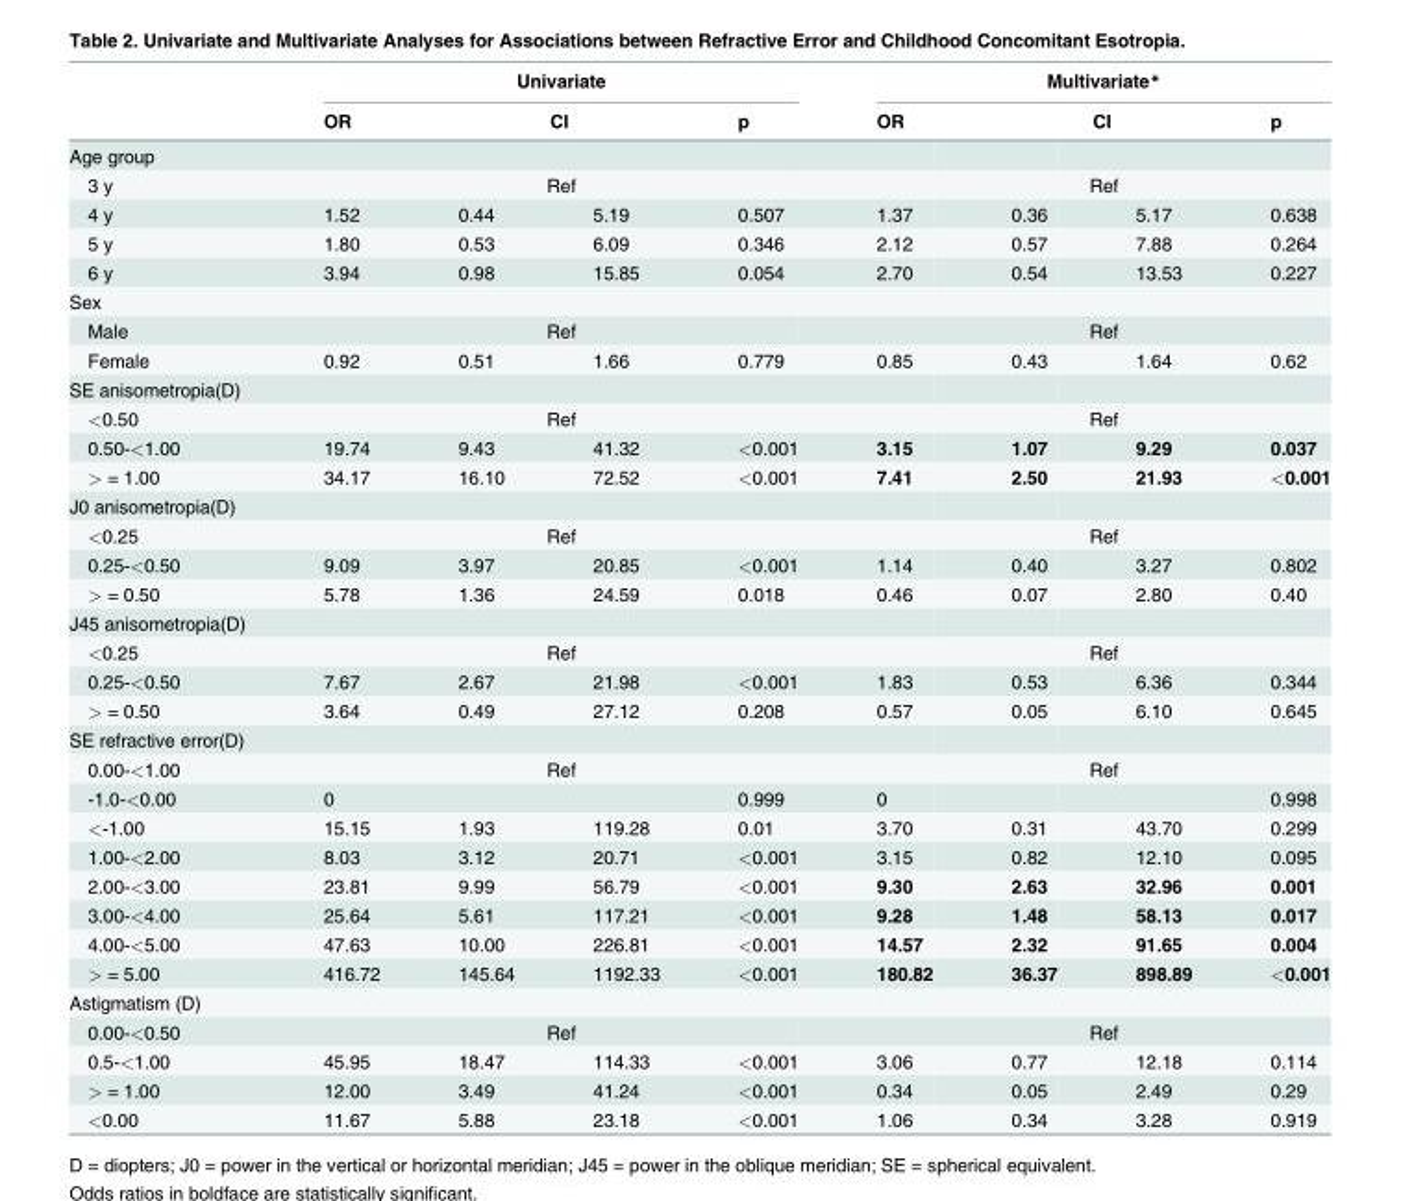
<table><thead><tr><td rowspan="3">Age group</td><td colspan="4">Univariate</td><td colspan="4">Multivariate*</td></tr><tr><td rowspan="2">OR</td><td colspan="2">CI</td><td rowspan="2">p</td><td rowspan="2">OR</td><td colspan="2">CI</td><td rowspan="2">p</td></tr><tr><td></td><td></td><td></td><td></td></tr></thead><tbody><tr><td>3 y</td><td colspan="4">Ref</td><td colspan="4">Ref</td></tr><tr><td>4 y</td><td>1.52</td><td>0.44</td><td>5.19</td><td>0.507</td><td>1.37</td><td>0.36</td><td>5.17</td><td>0.638</td></tr><tr><td>5 y</td><td>1.80</td><td>0.53</td><td>6.09</td><td>0.346</td><td>2.12</td><td>0.57</td><td>7.88</td><td>0.264</td></tr><tr><td>6 y</td><td>3.94</td><td>0.98</td><td>15.85</td><td>0.054</td><td>2.70</td><td>0.54</td><td>13.53</td><td>0.227</td></tr><tr><td colspan="9">Sex</td></tr><tr><td>Male</td><td colspan="4">Ref</td><td colspan="4">Ref</td></tr><tr><td>Female</td><td>0.92</td><td>0.51</td><td>1.66</td><td>0.779</td><td>0.85</td><td>0.43</td><td>1.64</td><td>0.62</td></tr><tr><td colspan="9">SE anisometropia(D)</td></tr><tr><td>&lt;0.50</td><td colspan="4">Ref</td><td colspan="4">Ref</td></tr><tr><td>0.50-&lt;1.00</td><td>19.74</td><td>9.43</td><td>41.32</td><td>&lt;0.001</td><td>3.15</td><td>1.07</td><td>9.29</td><td>0.037</td></tr><tr><td>&gt; = 1.00</td><td>34.17</td><td>16.10</td><td>72.52</td><td>&lt;0.001</td><td>7.41</td><td>2.50</td><td>21.93</td><td>&lt;0.001</td></tr><tr><td colspan="9">J0 anisometropia(D)</td></tr><tr><td>&lt;0.25</td><td colspan="4">Ref</td><td colspan="4">Ref</td></tr><tr><td>0.25-&lt;0.50</td><td>9.09</td><td>3.97</td><td>20.85</td><td>&lt;0.001</td><td>1.14</td><td>0.40</td><td>3.27</td><td>0.802</td></tr><tr><td>&gt; = 0.50</td><td>5.78</td><td>1.36</td><td>24.59</td><td>0.018</td><td>0.46</td><td>0.07</td><td>2.80</td><td>0.40</td></tr><tr><td colspan="9">J45 anisometropia(D)</td></tr><tr><td>&lt;0.25</td><td colspan="4">Ref</td><td colspan="4">Ref</td></tr><tr><td>0.25-&lt;0.50</td><td>7.67</td><td>2.67</td><td>21.98</td><td>&lt;0.001</td><td>1.83</td><td>0.53</td><td>6.36</td><td>0.344</td></tr><tr><td>&gt; = 0.50</td><td>3.64</td><td>0.49</td><td>27.12</td><td>0.208</td><td>0.57</td><td>0.05</td><td>6.10</td><td>0.645</td></tr><tr><td colspan="9">SE refractive error(D)</td></tr><tr><td>0.00-&lt;1.00</td><td colspan="4">Ref</td><td colspan="4">Ref</td></tr><tr><td>-1.0-&lt;0.00</td><td>0</td><td></td><td></td><td>0.999</td><td>0</td><td></td><td></td><td>0.998</td></tr><tr><td>&lt;-1.00</td><td>15.15</td><td>1.93</td><td>119.28</td><td>0.01</td><td>3.70</td><td>0.31</td><td>43.70</td><td>0.299</td></tr><tr><td>1.00-&lt;2.00</td><td>8.03</td><td>3.12</td><td>20.71</td><td>&lt;0.001</td><td>3.15</td><td>0.82</td><td>12.10</td><td>0.095</td></tr><tr><td>2.00-&lt;3.00</td><td>23.81</td><td>9.99</td><td>56.79</td><td>&lt;0.001</td><td>9.30</td><td>2.63</td><td>32.96</td><td>0.001</td></tr><tr><td>3.00-&lt;4.00</td><td>25.64</td><td>5.61</td><td>117.21</td><td>&lt;0.001</td><td>9.28</td><td>1.48</td><td>58.13</td><td>0.017</td></tr><tr><td>4.00-&lt;5.00</td><td>47.63</td><td>10.00</td><td>226.81</td><td>&lt;0.001</td><td>14.57</td><td>2.32</td><td>91.65</td><td>0.004</td></tr><tr><td>&gt; = 5.00</td><td>416.72</td><td>145.64</td><td>1192.33</td><td>&lt;0.001</td><td>180.82</td><td>36.37</td><td>898.89</td><td>&lt;0.001</td></tr><tr><td colspan="9">Astigmatism (D)</td></tr><tr><td>0.00-&lt;0.50</td><td colspan="4">Ref</td><td colspan="4">Ref</td></tr><tr><td>0.5-&lt;1.00</td><td>45.95</td><td>18.47</td><td>114.33</td><td>&lt;0.001</td><td>3.06</td><td>0.77</td><td>12.18</td><td>0.114</td></tr><tr><td>&gt; = 1.00</td><td>12.00</td><td>3.49</td><td>41.24</td><td>&lt;0.001</td><td>0.34</td><td>0.05</td><td>2.49</td><td>0.29</td></tr><tr><td>&lt;0.00</td><td>11.67</td><td>5.88</td><td>23.18</td><td>&lt;0.001</td><td>1.06</td><td>0.34</td><td>3.28</td><td>0.919</td></tr></tbody></table>